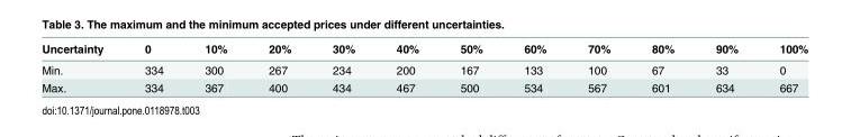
<table><thead><tr><td>Uncertainty</td><td>0</td><td>10%</td><td>20%</td><td>30%</td><td>40%</td><td>50%</td><td>60%</td><td>70%</td><td>80%</td><td>90%</td><td>100%</td></tr></thead><tbody><tr><td>Min.</td><td>334</td><td>300</td><td>267</td><td>234</td><td>200</td><td>167</td><td>133</td><td>100</td><td>67</td><td>33</td><td>0</td></tr><tr><td>Max.</td><td>334</td><td>367</td><td>400</td><td>434</td><td>467</td><td>500</td><td>534</td><td>567</td><td>601</td><td>634</td><td>667</td></tr></tbody></table>